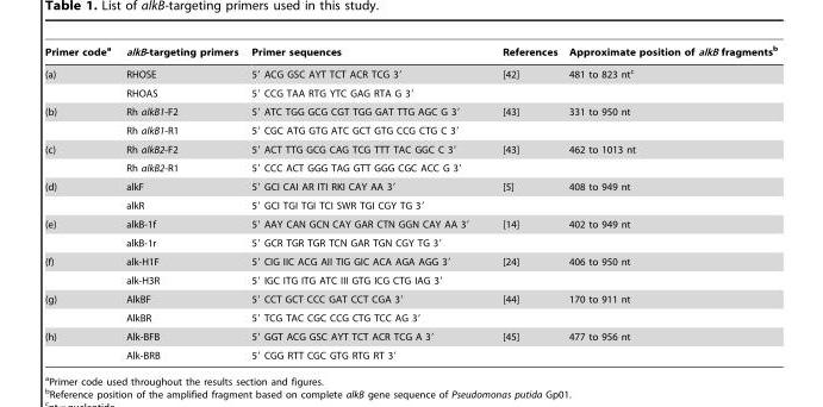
<table><thead><tr><td>Primer code<sup>a</sup></td><td>alkB-targeting primers</td><td>Primer sequences</td><td>References</td><td>Approximate position of alkB fragments<sup>b</sup></td></tr></thead><tbody><tr><td rowspan="2">(a)</td><td>RHOSE</td><td>5′ ACG GSC AYT TCT ACR TCG 3′</td><td>[42]</td><td>481 to 823 nt<sup>c</sup></td></tr><tr><td>RHOAS</td><td>5′ CCG TAA RTG YTC GAG RTA G 3′</td><td></td><td></td></tr><tr><td rowspan="2">(b)</td><td>Rh alkB1-F2</td><td>5′ ATC TGG GCG CGT TGG GAT TTG AGC G 3′</td><td>[43]</td><td>331 to 950 nt</td></tr><tr><td>Rh alkB1-R1</td><td>5′ CGC ATG GTG ATC GCT GTG CCG CTG C 3′</td><td></td><td></td></tr><tr><td rowspan="2">(c)</td><td>Rh alkB2-F2</td><td>5′ ACT TTG GCG CAG TCG TTT TAC GGC C 3′</td><td>[43]</td><td>462 to 1013 nt</td></tr><tr><td>Rh alkB2-R1</td><td>5′ CCC ACT GGG TAG GTT GGG CGC ACC G 3′</td><td></td><td></td></tr><tr><td rowspan="2">(d)</td><td>alkF</td><td>5′ GCI CAI AR ITI RKI CAY AA 3′</td><td>[5]</td><td>408 to 949 nt</td></tr><tr><td>alkR</td><td>5′ GCI TGI TGI TCI SWR TGI CGY TG 3′</td><td></td><td></td></tr><tr><td rowspan="2">(e)</td><td>alkB-1f</td><td>5′ AAY CAN GCN CAY GAR CTN GGN CAY AA 3′</td><td>[14]</td><td>402 to 949 nt</td></tr><tr><td>alkB-1r</td><td>5′ GCR TGR TGR TCN GAR TGN CGY TG 3′</td><td></td><td></td></tr><tr><td rowspan="2">(f)</td><td>alk-H1F</td><td>5′ CIG IIC ACG AII TIG GIC ACA AGA AGG 3′</td><td>[24]</td><td>406 to 950 nt</td></tr><tr><td>alk-H3R</td><td>5′ IGC ITG ITG ATC III GTG ICG CTG IAG 3′</td><td></td><td></td></tr><tr><td rowspan="2">(g)</td><td>AlkBF</td><td>5′ CCT GCT CCC GAT CCT CGA 3′</td><td>[44]</td><td>170 to 911 nt</td></tr><tr><td>AlkBR</td><td>5′ TCG TAC CGC CCG CTG TCC AG 3′</td><td></td><td></td></tr><tr><td rowspan="2">(h)</td><td>Alk-BFB</td><td>5′ GGT ACG GSC AYT TCT ACR TCG A 3′</td><td>[45]</td><td>477 to 956 nt</td></tr><tr><td>Alk-BRB</td><td>5′ CGG RTT CGC GTG RTG RT 3′</td><td></td><td></td></tr></tbody></table>